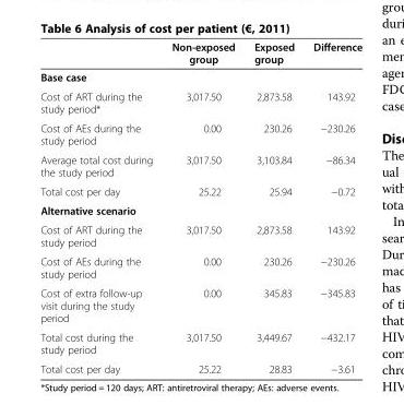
<table><thead><tr><td></td><td>Non-exposed group</td><td>Exposed group</td><td>Difference</td></tr></thead><tbody><tr><td colspan="4">Base case</td></tr><tr><td>Cost of ART during the study period*</td><td>3,017.50</td><td>2,873.58</td><td>143.92</td></tr><tr><td>Cost of AEs during the study period</td><td>0.00</td><td>230.26</td><td>−230.26</td></tr><tr><td>Average total cost during the study period</td><td>3,017.50</td><td>3,103.84</td><td>−86.34</td></tr><tr><td>Total cost per day</td><td>25.22</td><td>25.94</td><td>−0.72</td></tr><tr><td colspan="4">Alternative scenario</td></tr><tr><td>Cost of ART during the study period</td><td>3,017.50</td><td>2,873.58</td><td>143.92</td></tr><tr><td>Cost of AEs during the study period</td><td>0.00</td><td>230.26</td><td>−230.26</td></tr><tr><td>Cost of extra follow-up visit during the study period</td><td>0.00</td><td>345.83</td><td>−345.83</td></tr><tr><td>Total cost during the study period</td><td>3,017.50</td><td>3,449.67</td><td>−432.17</td></tr><tr><td>Total cost per day</td><td>25.22</td><td>28.83</td><td>−3.61</td></tr></tbody></table>